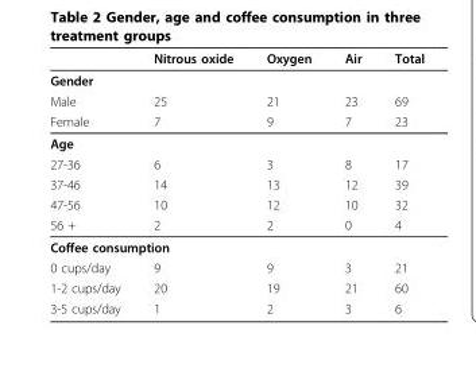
<table><thead><tr><td></td><td>Nitrous oxide</td><td>Oxygen</td><td>Air</td><td>Total</td></tr></thead><tbody><tr><td colspan="5">Gender</td></tr><tr><td>Male</td><td>25</td><td>21</td><td>23</td><td>69</td></tr><tr><td>Female</td><td>7</td><td>9</td><td>7</td><td>23</td></tr><tr><td colspan="5">Age</td></tr><tr><td>27-36</td><td>6</td><td>3</td><td>8</td><td>17</td></tr><tr><td>37-46</td><td>14</td><td>13</td><td>12</td><td>39</td></tr><tr><td>47-56</td><td>10</td><td>12</td><td>10</td><td>32</td></tr><tr><td>56 +</td><td>2</td><td>2</td><td>0</td><td>4</td></tr><tr><td colspan="5">Coffee consumption</td></tr><tr><td>0 cups/day</td><td>9</td><td>9</td><td>3</td><td>21</td></tr><tr><td>1-2 cups/day</td><td>20</td><td>19</td><td>21</td><td>60</td></tr><tr><td>3-5 cups/day</td><td>1</td><td>2</td><td>3</td><td>6</td></tr></tbody></table>